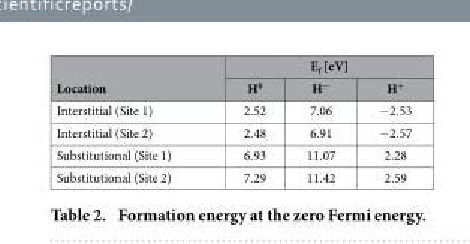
<table><thead><tr><td rowspan="2">Location</td><td colspan="3">E<sub>f</sub> [eV]</td></tr><tr><td>H<sup>0</sup></td><td>H<sup>−</sup></td><td>H<sup>+</sup></td></tr></thead><tbody><tr><td>Interstitial (Site 1)</td><td>2.52</td><td>7.06</td><td>− 2.53</td></tr><tr><td>Interstitial (Site 2)</td><td>2.48</td><td>6.91</td><td>− 2.57</td></tr><tr><td>Substitutional (Site 1)</td><td>6.93</td><td>11.07</td><td>2.28</td></tr><tr><td>Substitutional (Site 2)</td><td>7.29</td><td>11.42</td><td>2.59</td></tr></tbody></table>